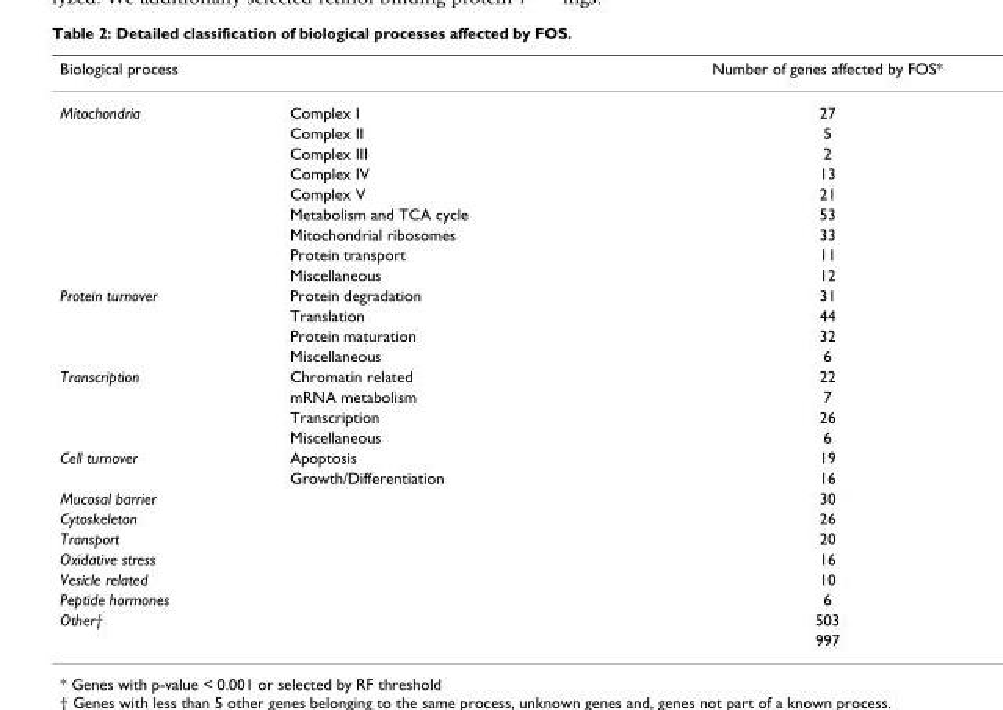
<table><thead><tr><td>Biological process</td><td></td><td>Number of genes affected by FOS*</td></tr></thead><tbody><tr><td rowspan="9">Mitochondria</td><td>Complex I</td><td>27</td></tr><tr><td>Complex II</td><td>5</td></tr><tr><td>Complex III</td><td>2</td></tr><tr><td>Complex IV</td><td>13</td></tr><tr><td>Complex V</td><td>21</td></tr><tr><td>Metabolism and TCA cycle</td><td>53</td></tr><tr><td>Mitochondrial ribosomes</td><td>33</td></tr><tr><td>Protein transport</td><td>11</td></tr><tr><td>Miscellaneous</td><td>12</td></tr><tr><td rowspan="4">Protein turnover</td><td>Protein degradation</td><td>31</td></tr><tr><td>Translation</td><td>44</td></tr><tr><td>Protein maturation</td><td>32</td></tr><tr><td>Miscellaneous</td><td>6</td></tr><tr><td rowspan="4">Transcription</td><td>Chromatin related</td><td>22</td></tr><tr><td>mRNA metabolism</td><td>7</td></tr><tr><td>Transcription</td><td>26</td></tr><tr><td>Miscellaneous</td><td>6</td></tr><tr><td rowspan="2">Cell turnover</td><td>Apoptosis</td><td>19</td></tr><tr><td>Growth/Differentiation</td><td>16</td></tr><tr><td>Mucosal barrier</td><td></td><td>30</td></tr><tr><td>Cytoskeleton</td><td></td><td>26</td></tr><tr><td>Transport</td><td></td><td>20</td></tr><tr><td>Oxidative stress</td><td></td><td>16</td></tr><tr><td>Vesicle related</td><td></td><td>10</td></tr><tr><td>Peptide hormones</td><td></td><td>6</td></tr><tr><td rowspan="2">Other†</td><td></td><td>503</td></tr><tr><td></td><td>997</td></tr></tbody></table>